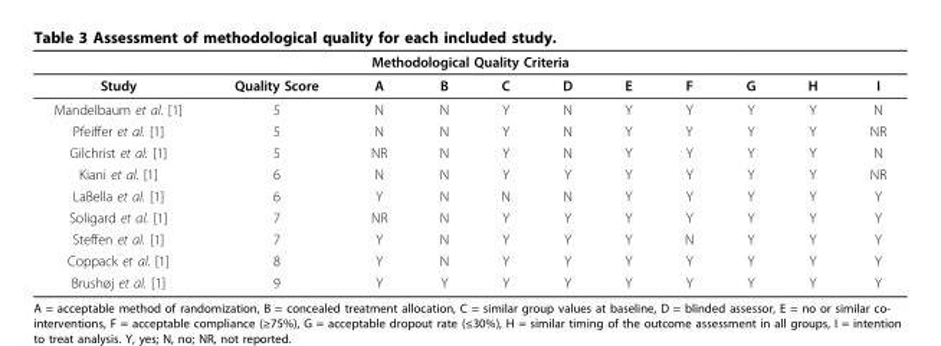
<table><thead><tr><td colspan="11">Methodological Quality Criteria</td></tr><tr><td>Study</td><td>Quality Score</td><td>A</td><td>B</td><td>C</td><td>D</td><td>E</td><td>F</td><td>G</td><td>H</td><td>I</td></tr></thead><tbody><tr><td>Mandelbaum et al. [1]</td><td>5</td><td>N</td><td>N</td><td>Y</td><td>N</td><td>Y</td><td>Y</td><td>Y</td><td>Y</td><td>N</td></tr><tr><td>Pfeiffer et al. [1]</td><td>5</td><td>N</td><td>N</td><td>Y</td><td>N</td><td>Y</td><td>Y</td><td>Y</td><td>Y</td><td>NR</td></tr><tr><td>Gilchrist et al. [1]</td><td>5</td><td>NR</td><td>N</td><td>Y</td><td>N</td><td>Y</td><td>Y</td><td>Y</td><td>Y</td><td>N</td></tr><tr><td>Kiani et al. [1]</td><td>6</td><td>N</td><td>N</td><td>Y</td><td>Y</td><td>Y</td><td>Y</td><td>Y</td><td>Y</td><td>NR</td></tr><tr><td>LaBella et al. [1]</td><td>6</td><td>Y</td><td>N</td><td>N</td><td>N</td><td>Y</td><td>Y</td><td>Y</td><td>Y</td><td>Y</td></tr><tr><td>Soligard et al. [1]</td><td>7</td><td>NR</td><td>N</td><td>Y</td><td>Y</td><td>Y</td><td>Y</td><td>Y</td><td>Y</td><td>Y</td></tr><tr><td>Steffen et al. [1]</td><td>7</td><td>Y</td><td>N</td><td>Y</td><td>Y</td><td>Y</td><td>N</td><td>Y</td><td>Y</td><td>Y</td></tr><tr><td>Coppack et al. [1]</td><td>8</td><td>Y</td><td>N</td><td>Y</td><td>Y</td><td>Y</td><td>Y</td><td>Y</td><td>Y</td><td>Y</td></tr><tr><td>Brushøj et al. [1]</td><td>9</td><td>Y</td><td>Y</td><td>Y</td><td>Y</td><td>Y</td><td>Y</td><td>Y</td><td>Y</td><td>Y</td></tr></tbody></table>